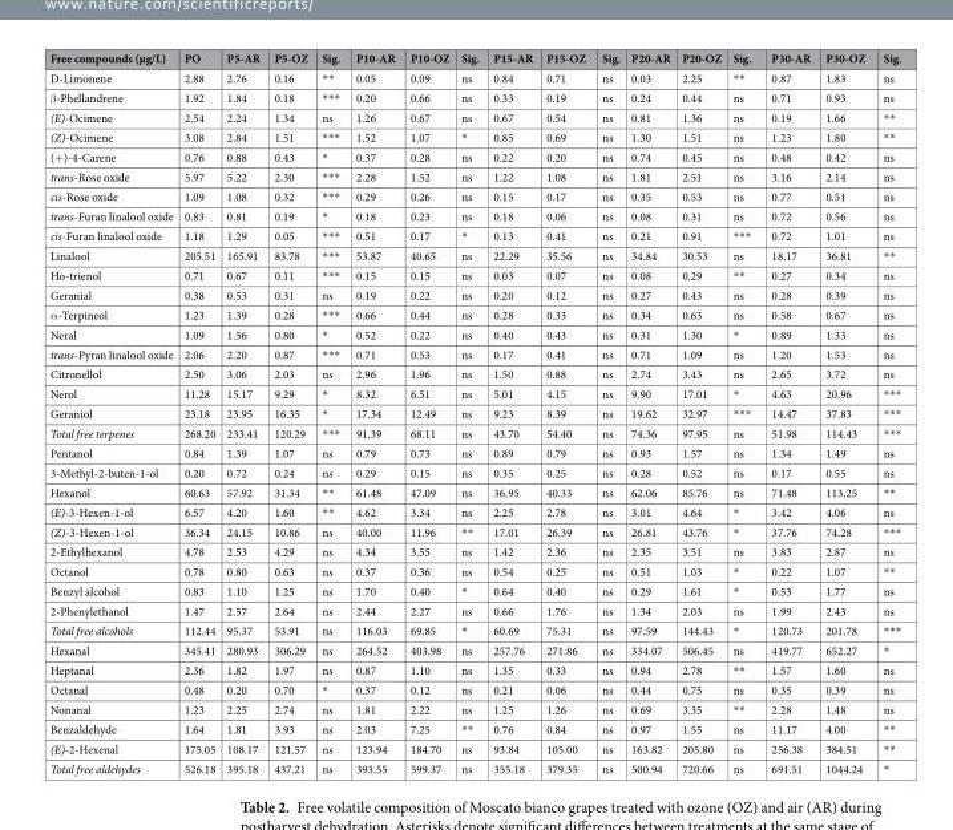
<table><thead><tr><td>Free compounds (µg/L)</td><td>PO</td><td>P5-AR</td><td>P5-OZ</td><td>Sig.</td><td>P10-AR</td><td>P10-OZ</td><td>Sig.</td><td>P15-AR</td><td>P15-OZ</td><td>Sig.</td><td>P20-AR</td><td>P20-OZ</td><td>Sig.</td><td>P30-AR</td><td>P30-OZ</td><td>Sig.</td></tr></thead><tbody><tr><td>D-Limonene</td><td>2.88</td><td>2.76</td><td>0.16</td><td>**</td><td>0.05</td><td>0.09</td><td>ns</td><td>0.84</td><td>0.71</td><td>ns</td><td>0.03</td><td>2.25</td><td>**</td><td>0.87</td><td>1.83</td><td>ns</td></tr><tr><td>β-Phellandrene</td><td>1.92</td><td>1.84</td><td>0.18</td><td>***</td><td>0.20</td><td>0.66</td><td>ns</td><td>0.33</td><td>0.19</td><td>ns</td><td>0.24</td><td>0.44</td><td>ns</td><td>0.71</td><td>0.93</td><td>ns</td></tr><tr><td>(E)-Ocimene</td><td>2.54</td><td>2.24</td><td>1.34</td><td>ns</td><td>1.26</td><td>0.67</td><td>ns</td><td>0.67</td><td>0.54</td><td>ns</td><td>0.81</td><td>1.36</td><td>ns</td><td>0.19</td><td>1.66</td><td>**</td></tr><tr><td>(Z)-Ocimene</td><td>3.08</td><td>2.84</td><td>1.51</td><td>***</td><td>1.52</td><td>1.07</td><td>*</td><td>0.85</td><td>0.69</td><td>ns</td><td>1.30</td><td>1.51</td><td>ns</td><td>1.23</td><td>1.80</td><td>**</td></tr><tr><td>(+)-4-Carene</td><td>0.76</td><td>0.88</td><td>0.43</td><td>*</td><td>0.37</td><td>0.28</td><td>ns</td><td>0.22</td><td>0.20</td><td>ns</td><td>0.74</td><td>0.45</td><td>ns</td><td>0.48</td><td>0.42</td><td>ns</td></tr><tr><td>trans-Rose oxide</td><td>5.97</td><td>5.22</td><td>2.30</td><td>***</td><td>2.28</td><td>1.52</td><td>ns</td><td>1.22</td><td>1.08</td><td>ns</td><td>1.81</td><td>2.51</td><td>ns</td><td>3.16</td><td>2.14</td><td>ns</td></tr><tr><td>cis-Rose oxide</td><td>1.09</td><td>1.08</td><td>0.32</td><td>***</td><td>0.29</td><td>0.26</td><td>ns</td><td>0.15</td><td>0.17</td><td>ns</td><td>0.35</td><td>0.53</td><td>ns</td><td>0.77</td><td>0.51</td><td>ns</td></tr><tr><td>trans-Furan linalool oxide</td><td>0.83</td><td>0.81</td><td>0.19</td><td>*</td><td>0.18</td><td>0.23</td><td>ns</td><td>0.18</td><td>0.06</td><td>ns</td><td>0.08</td><td>0.31</td><td>ns</td><td>0.72</td><td>0.56</td><td>ns</td></tr><tr><td>cis-Furan linalool oxide</td><td>1.18</td><td>1.29</td><td>0.05</td><td>***</td><td>0.51</td><td>0.17</td><td>*</td><td>0.13</td><td>0.41</td><td>ns</td><td>0.21</td><td>0.91</td><td>***</td><td>0.72</td><td>1.01</td><td>ns</td></tr><tr><td>Linalool</td><td>205.51</td><td>165.91</td><td>83.78</td><td>***</td><td>53.87</td><td>40.65</td><td>ns</td><td>22.29</td><td>35.56</td><td>ns</td><td>34.84</td><td>30.53</td><td>ns</td><td>18.17</td><td>36.81</td><td>**</td></tr><tr><td>Ho-trienol</td><td>0.71</td><td>0.67</td><td>0.11</td><td>***</td><td>0.15</td><td>0.15</td><td>ns</td><td>0.03</td><td>0.07</td><td>ns</td><td>0.08</td><td>0.29</td><td>**</td><td>0.27</td><td>0.34</td><td>ns</td></tr><tr><td>Geranial</td><td>0.38</td><td>0.53</td><td>0.31</td><td>ns</td><td>0.19</td><td>0.22</td><td>ns</td><td>0.20</td><td>0.12</td><td>ns</td><td>0.27</td><td>0.43</td><td>ns</td><td>0.28</td><td>0.39</td><td>ns</td></tr><tr><td>α-Terpineol</td><td>1.23</td><td>1.39</td><td>0.28</td><td>***</td><td>0.66</td><td>0.44</td><td>ns</td><td>0.28</td><td>0.33</td><td>ns</td><td>0.34</td><td>0.63</td><td>ns</td><td>0.58</td><td>0.67</td><td>ns</td></tr><tr><td>Neral</td><td>1.09</td><td>1.56</td><td>0.80</td><td>*</td><td>0.52</td><td>0.22</td><td>ns</td><td>0.40</td><td>0.43</td><td>ns</td><td>0.31</td><td>1.30</td><td>*</td><td>0.89</td><td>1.33</td><td>ns</td></tr><tr><td>trans-Pyran linalool oxide</td><td>2.06</td><td>2.20</td><td>0.87</td><td>***</td><td>0.71</td><td>0.53</td><td>ns</td><td>0.17</td><td>0.41</td><td>ns</td><td>0.71</td><td>1.09</td><td>ns</td><td>1.20</td><td>1.53</td><td>ns</td></tr><tr><td>Citronellol</td><td>2.50</td><td>3.06</td><td>2.03</td><td>ns</td><td>2.96</td><td>1.96</td><td>ns</td><td>1.50</td><td>0.88</td><td>ns</td><td>2.74</td><td>3.43</td><td>ns</td><td>2.65</td><td>3.72</td><td>ns</td></tr><tr><td>Nerol</td><td>11.28</td><td>15.17</td><td>9.29</td><td>*</td><td>8.32</td><td>6.51</td><td>ns</td><td>5.01</td><td>4.15</td><td>ns</td><td>9.90</td><td>17.01</td><td>*</td><td>4.63</td><td>20.96</td><td>***</td></tr><tr><td>Geraniol</td><td>23.18</td><td>23.95</td><td>16.35</td><td>*</td><td>17.34</td><td>12.49</td><td>ns</td><td>9.23</td><td>8.39</td><td>ns</td><td>19.62</td><td>32.97</td><td>***</td><td>14.47</td><td>37.83</td><td>***</td></tr><tr><td>Total free terpenes</td><td>268.20</td><td>233.41</td><td>120.29</td><td>***</td><td>91.39</td><td>68.11</td><td>ns</td><td>43.70</td><td>54.40</td><td>ns</td><td>74.36</td><td>97.95</td><td>ns</td><td>51.98</td><td>114.43</td><td>***</td></tr><tr><td>Pentanol</td><td>0.84</td><td>1.39</td><td>1.07</td><td>ns</td><td>0.79</td><td>0.73</td><td>ns</td><td>0.89</td><td>0.79</td><td>ns</td><td>0.93</td><td>1.57</td><td>ns</td><td>1.34</td><td>1.49</td><td>ns</td></tr><tr><td>3-Methyl-2-buten-1-ol</td><td>0.20</td><td>0.72</td><td>0.24</td><td>ns</td><td>0.29</td><td>0.15</td><td>ns</td><td>0.35</td><td>0.25</td><td>ns</td><td>0.28</td><td>0.52</td><td>ns</td><td>0.17</td><td>0.55</td><td>ns</td></tr><tr><td>Hexanol</td><td>60.63</td><td>57.92</td><td>31.34</td><td>**</td><td>61.48</td><td>47.09</td><td>ns</td><td>36.95</td><td>40.33</td><td>ns</td><td>62.06</td><td>85.76</td><td>ns</td><td>71.48</td><td>113.25</td><td>**</td></tr><tr><td>(E)-3-Hexen-1-ol</td><td>6.57</td><td>4.20</td><td>1.60</td><td>**</td><td>4.62</td><td>3.34</td><td>ns</td><td>2.25</td><td>2.78</td><td>ns</td><td>3.01</td><td>4.64</td><td>*</td><td>3.42</td><td>4.06</td><td>ns</td></tr><tr><td>(Z)-3-Hexen-1-ol</td><td>36.34</td><td>24.15</td><td>10.86</td><td>ns</td><td>40.00</td><td>11.96</td><td>**</td><td>17.01</td><td>26.39</td><td>ns</td><td>26.81</td><td>43.76</td><td>*</td><td>37.76</td><td>74.28</td><td>***</td></tr><tr><td>2-Ethylhexanol</td><td>4.78</td><td>2.53</td><td>4.29</td><td>ns</td><td>4.34</td><td>3.55</td><td>ns</td><td>1.42</td><td>2.36</td><td>ns</td><td>2.35</td><td>3.51</td><td>ns</td><td>3.83</td><td>2.87</td><td>ns</td></tr><tr><td>Octanol</td><td>0.78</td><td>0.80</td><td>0.63</td><td>ns</td><td>0.37</td><td>0.36</td><td>ns</td><td>0.54</td><td>0.25</td><td>ns</td><td>0.51</td><td>1.03</td><td>*</td><td>0.22</td><td>1.07</td><td>**</td></tr><tr><td>Benzyl alcohol</td><td>0.83</td><td>1.10</td><td>1.25</td><td>ns</td><td>1.70</td><td>0.40</td><td>*</td><td>0.64</td><td>0.40</td><td>ns</td><td>0.29</td><td>1.61</td><td>*</td><td>0.53</td><td>1.77</td><td>ns</td></tr><tr><td>2-Phenylethanol</td><td>1.47</td><td>2.57</td><td>2.64</td><td>ns</td><td>2.44</td><td>2.27</td><td>ns</td><td>0.66</td><td>1.76</td><td>ns</td><td>1.34</td><td>2.03</td><td>ns</td><td>1.99</td><td>2.43</td><td>ns</td></tr><tr><td>Total free alcohols</td><td>112.44</td><td>95.37</td><td>53.91</td><td>ns</td><td>116.03</td><td>69.85</td><td>*</td><td>60.69</td><td>75.31</td><td>ns</td><td>97.59</td><td>144.43</td><td>*</td><td>120.73</td><td>201.78</td><td>***</td></tr><tr><td>Hexanal</td><td>345.41</td><td>280.93</td><td>306.29</td><td>ns</td><td>264.52</td><td>403.98</td><td>ns</td><td>257.76</td><td>271.86</td><td>ns</td><td>334.07</td><td>506.45</td><td>ns</td><td>419.77</td><td>652.27</td><td>*</td></tr><tr><td>Heptanal</td><td>2.36</td><td>1.82</td><td>1.97</td><td>ns</td><td>0.87</td><td>1.10</td><td>ns</td><td>1.35</td><td>0.33</td><td>ns</td><td>0.94</td><td>2.78</td><td>**</td><td>1.57</td><td>1.60</td><td>ns</td></tr><tr><td>Octanal</td><td>0.48</td><td>0.20</td><td>0.70</td><td>*</td><td>0.37</td><td>0.12</td><td>ns</td><td>0.21</td><td>0.06</td><td>ns</td><td>0.44</td><td>0.75</td><td>ns</td><td>0.35</td><td>0.39</td><td>ns</td></tr><tr><td>Nonanal</td><td>1.23</td><td>2.25</td><td>2.74</td><td>ns</td><td>1.81</td><td>2.22</td><td>ns</td><td>1.25</td><td>1.26</td><td>ns</td><td>0.69</td><td>3.35</td><td>**</td><td>2.28</td><td>1.48</td><td>ns</td></tr><tr><td>Benzaldehyde</td><td>1.64</td><td>1.81</td><td>3.93</td><td>ns</td><td>2.03</td><td>7.25</td><td>**</td><td>0.76</td><td>0.84</td><td>ns</td><td>0.97</td><td>1.55</td><td>ns</td><td>11.17</td><td>4.00</td><td>**</td></tr><tr><td>(E)-2-Hexenal</td><td>175.05</td><td>108.17</td><td>121.57</td><td>ns</td><td>123.94</td><td>184.70</td><td>ns</td><td>93.84</td><td>105.00</td><td>ns</td><td>163.82</td><td>205.80</td><td>ns</td><td>256.38</td><td>384.51</td><td>**</td></tr><tr><td>Total free aldehydes</td><td>526.18</td><td>395.18</td><td>437.21</td><td>ns</td><td>393.55</td><td>599.37</td><td>ns</td><td>355.18</td><td>379.35</td><td>ns</td><td>500.94</td><td>720.66</td><td>ns</td><td>691.51</td><td>1044.24</td><td>*</td></tr></tbody></table>